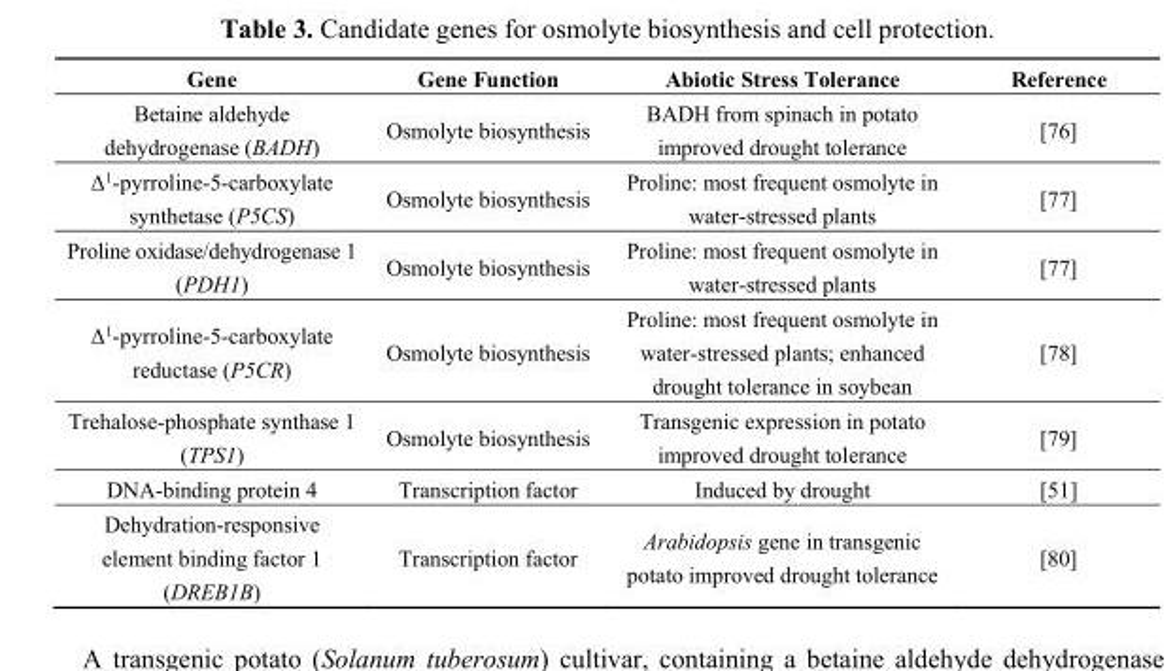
<table><thead><tr><td>Gene</td><td>Gene Function</td><td>Abiotic Stress Tolerance</td><td>Reference</td></tr></thead><tbody><tr><td>Betaine aldehyde dehydrogenase (BADH)</td><td>Osmolyte biosynthesis</td><td>BADH from spinach in potato improved drought tolerance</td><td>[76]</td></tr><tr><td>Δ<sup>1</sup>-pyrroline-5-carboxylate synthetase (P5CS)</td><td>Osmolyte biosynthesis</td><td>Proline: most frequent osmolyte in water-stressed plants</td><td>[77]</td></tr><tr><td>Proline oxidase/dehydrogenase 1 (PDH1)</td><td>Osmolyte biosynthesis</td><td>Proline: most frequent osmolyte in water-stressed plants</td><td>[77]</td></tr><tr><td>Δ<sup>1</sup>-pyrroline-5-carboxylate reductase (P5CR)</td><td>Osmolyte biosynthesis</td><td>Proline: most frequent osmolyte in water-stressed plants; enhanced drought tolerance in soybean</td><td>[78]</td></tr><tr><td>Trehalose-phosphate synthase 1 (TPS1)</td><td>Osmolyte biosynthesis</td><td>Transgenic expression in potato improved drought tolerance</td><td>[79]</td></tr><tr><td>DNA-binding protein 4</td><td>Transcription factor</td><td>Induced by drought</td><td>[51]</td></tr><tr><td>Dehydration-responsive element binding factor 1 (DREB1B)</td><td>Transcription factor</td><td>Arabidopsis gene in transgenic potato improved drought tolerance</td><td>[80]</td></tr></tbody></table>